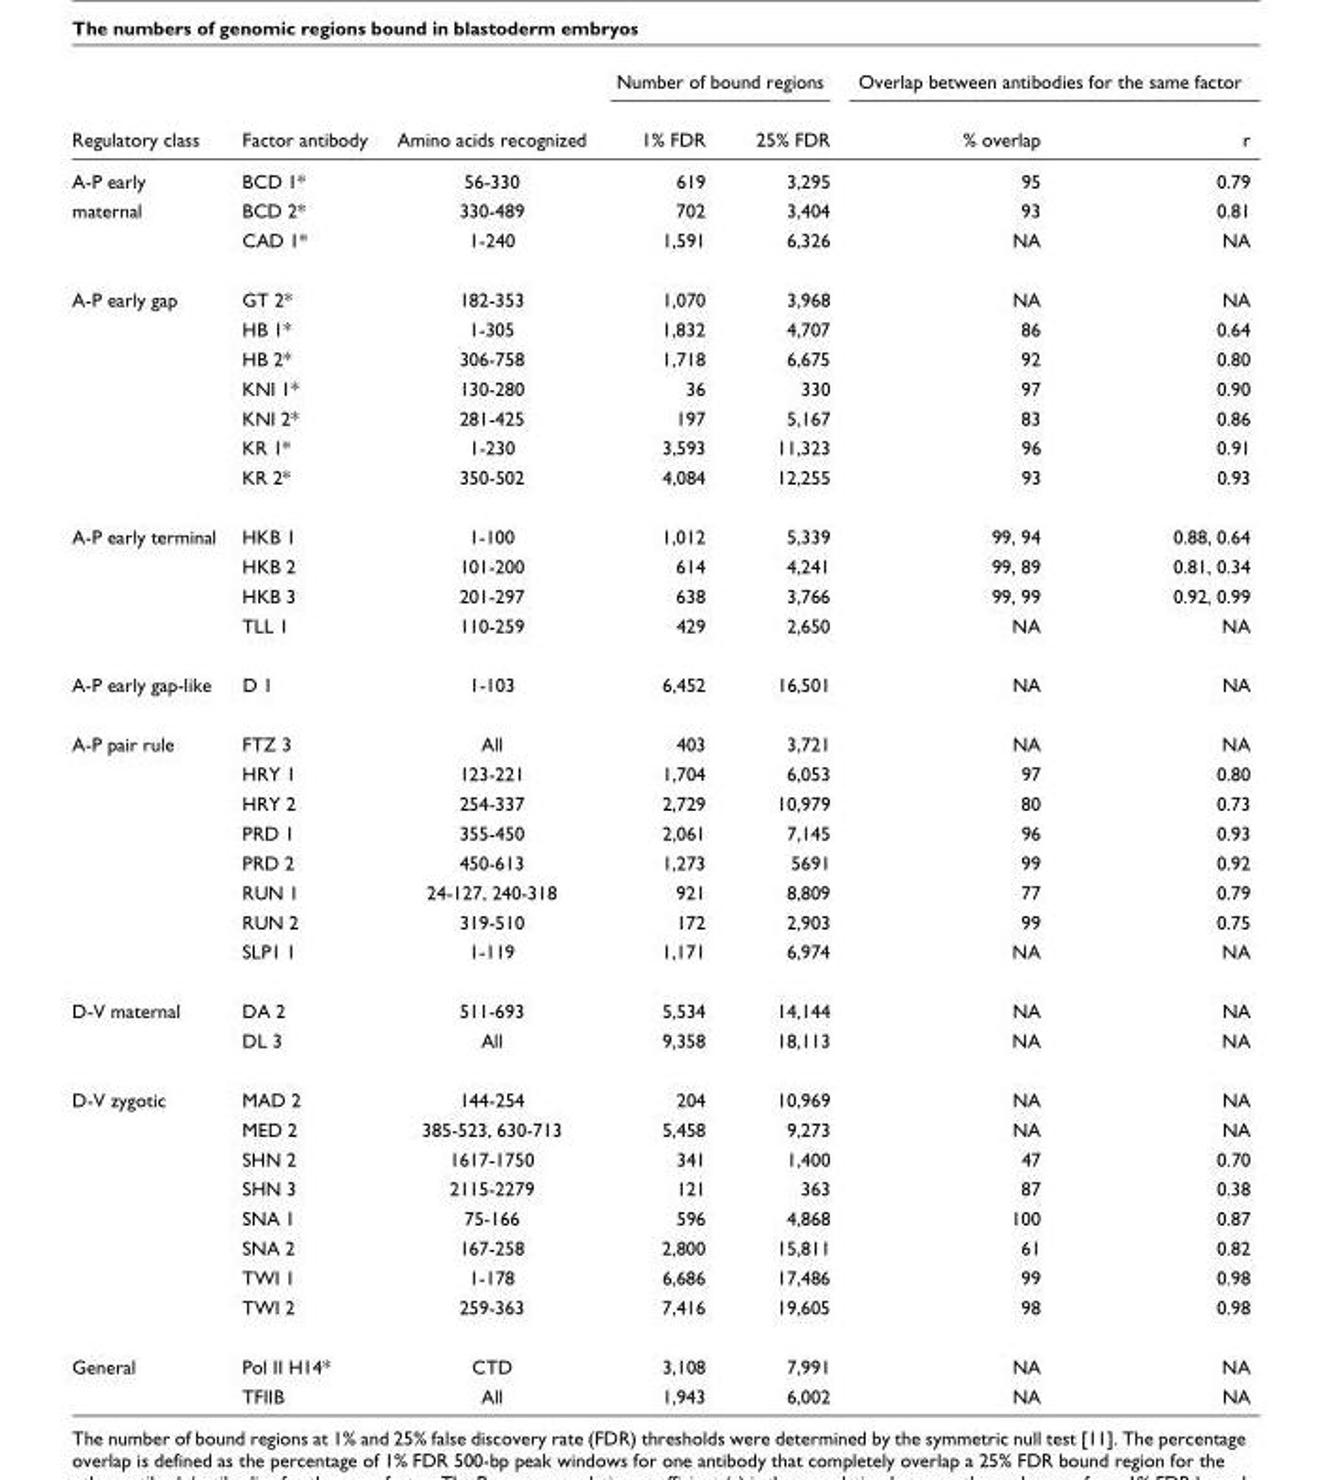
<table><thead><tr><td rowspan="2">Regulatory class</td><td rowspan="2">Factor antibody</td><td rowspan="2">Amino acids recognized</td><td colspan="2">Number of bound regions</td><td colspan="2">Overlap between antibodies for the same factor</td></tr><tr><td>1% FDR</td><td>25% FDR</td><td>% overlap</td><td>r</td></tr></thead><tbody><tr><td>A-P early</td><td>BCD 1*</td><td>56-330</td><td>619</td><td>3,295</td><td>95</td><td>0.79</td></tr><tr><td rowspan="2">maternal</td><td>BCD 2*</td><td>330-489</td><td>702</td><td>3,404</td><td>93</td><td>0.81</td></tr><tr><td>CAD 1*</td><td>1-240</td><td>1,591</td><td>6,326</td><td>NA</td><td>NA</td></tr><tr><td rowspan="7">A-P early gap</td><td>GT 2*</td><td>182-353</td><td>1,070</td><td>3,968</td><td>NA</td><td>NA</td></tr><tr><td>HB 1*</td><td>1-305</td><td>1,832</td><td>4,707</td><td>86</td><td>0.64</td></tr><tr><td>HB 2*</td><td>306-758</td><td>1,718</td><td>6,675</td><td>92</td><td>0.80</td></tr><tr><td>KNI 1*</td><td>130-280</td><td>36</td><td>330</td><td>97</td><td>0.90</td></tr><tr><td>KNI 2*</td><td>281-425</td><td>197</td><td>5,167</td><td>83</td><td>0.86</td></tr><tr><td>KR 1*</td><td>1-230</td><td>3,593</td><td>11,323</td><td>96</td><td>0.91</td></tr><tr><td>KR 2*</td><td>350-502</td><td>4,084</td><td>12,255</td><td>93</td><td>0.93</td></tr><tr><td rowspan="4">A-P early terminal</td><td>HKB 1</td><td>1-100</td><td>1,012</td><td>5,339</td><td>99, 94</td><td>0.88, 0.64</td></tr><tr><td>HKB 2</td><td>101-200</td><td>614</td><td>4,241</td><td>99, 89</td><td>0.81, 0.34</td></tr><tr><td>HKB 3</td><td>201-297</td><td>638</td><td>3,766</td><td>99, 99</td><td>0.92, 0.99</td></tr><tr><td>TLL 1</td><td>110-259</td><td>429</td><td>2,650</td><td>NA</td><td>NA</td></tr><tr><td>A-P early gap-like</td><td>D 1</td><td>1-103</td><td>6,452</td><td>16,501</td><td>NA</td><td>NA</td></tr><tr><td rowspan="8">A-P pair rule</td><td>FTZ 3</td><td>All</td><td>403</td><td>3,721</td><td>NA</td><td>NA</td></tr><tr><td>HRY 1</td><td>123-221</td><td>1,704</td><td>6,053</td><td>97</td><td>0.80</td></tr><tr><td>HRY 2</td><td>254-337</td><td>2,729</td><td>10,979</td><td>80</td><td>0.73</td></tr><tr><td>PRD 1</td><td>355-450</td><td>2,061</td><td>7,145</td><td>96</td><td>0.93</td></tr><tr><td>PRD 2</td><td>450-613</td><td>1,273</td><td>5691</td><td>99</td><td>0.92</td></tr><tr><td>RUN 1</td><td>24-127, 240-318</td><td>921</td><td>8,809</td><td>77</td><td>0.79</td></tr><tr><td>RUN 2</td><td>319-510</td><td>172</td><td>2,903</td><td>99</td><td>0.75</td></tr><tr><td>SLP1 1</td><td>1-119</td><td>1,171</td><td>6,974</td><td>NA</td><td>NA</td></tr><tr><td rowspan="2">D-V maternal</td><td>DA 2</td><td>511-693</td><td>5,534</td><td>14,144</td><td>NA</td><td>NA</td></tr><tr><td>DL 3</td><td>All</td><td>9,358</td><td>18,113</td><td>NA</td><td>NA</td></tr><tr><td rowspan="8">D-V zygotic</td><td>MAD 2</td><td>144-254</td><td>204</td><td>10,969</td><td>NA</td><td>NA</td></tr><tr><td>MED 2</td><td>385-523, 630-713</td><td>5,458</td><td>9,273</td><td>NA</td><td>NA</td></tr><tr><td>SHN 2</td><td>1617-1750</td><td>341</td><td>1,400</td><td>47</td><td>0.70</td></tr><tr><td>SHN 3</td><td>2115-2279</td><td>121</td><td>363</td><td>87</td><td>0.38</td></tr><tr><td>SNA 1</td><td>75-166</td><td>596</td><td>4,868</td><td>100</td><td>0.87</td></tr><tr><td>SNA 2</td><td>167-258</td><td>2,800</td><td>15,811</td><td>61</td><td>0.82</td></tr><tr><td>TWI 1</td><td>1-178</td><td>6,686</td><td>17,486</td><td>99</td><td>0.98</td></tr><tr><td>TWI 2</td><td>259-363</td><td>7,416</td><td>19,605</td><td>98</td><td>0.98</td></tr><tr><td rowspan="2">General</td><td>Pol II H14*</td><td>CTD</td><td>3,108</td><td>7,991</td><td>NA</td><td>NA</td></tr><tr><td>TFIIB</td><td>All</td><td>1,943</td><td>6,002</td><td>NA</td><td>NA</td></tr></tbody></table>